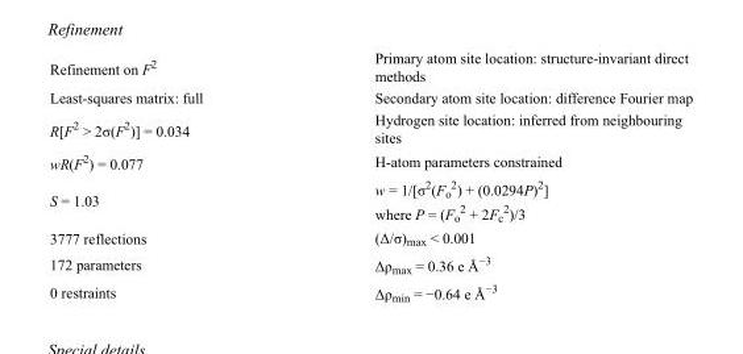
<table><tbody><tr><td>Refinement on F<sup>2</sup></td><td>Primary atom site location: structure-invariant direct methods</td></tr><tr><td>Least-squares matrix: full</td><td>Secondary atom site location: difference Fourier map</td></tr><tr><td>R[F<sup>2</sup> &gt; 2σ(F<sup>2</sup>)] = 0.034</td><td>Hydrogen site location: inferred from neighbouring sites</td></tr><tr><td>wR(F<sup>2</sup>) = 0.077</td><td>H-atom parameters constrained</td></tr><tr><td>S = 1.03</td><td>w = 1/[σ<sup>2</sup>(F<sub>o</sub> <sup>2</sup>) + (0.0294P)<sup>2</sup>] where P = (F<sub>o</sub> <sup>2</sup> + 2F<sub>c</sub> <sup>2</sup>)/3</td></tr><tr><td>3777 reflections</td><td>(Δ/σ)<sub>max</sub> &lt; 0.001</td></tr><tr><td>172 parameters</td><td>Δρ<sub>max</sub> = 0.36 e Å<sup>−3</sup></td></tr><tr><td>0 restraints</td><td>Δρ<sub>min</sub> = −0.64 e Å<sup>−3</sup></td></tr></tbody></table>